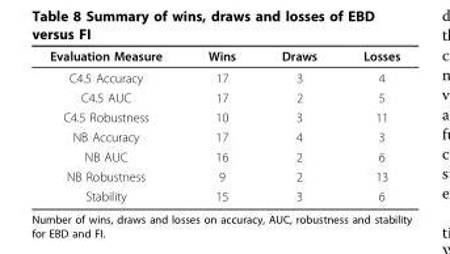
<table><thead><tr><td>Evaluation Measure</td><td>Wins</td><td>Draws</td><td>Losses</td></tr></thead><tbody><tr><td>C4.5 Accuracy</td><td>17</td><td>3</td><td>4</td></tr><tr><td>C4.5 AUC</td><td>17</td><td>2</td><td>5</td></tr><tr><td>C4.5 Robustness</td><td>10</td><td>3</td><td>11</td></tr><tr><td>NB Accuracy</td><td>17</td><td>4</td><td>3</td></tr><tr><td>NB AUC</td><td>16</td><td>2</td><td>6</td></tr><tr><td>NB Robustness</td><td>9</td><td>2</td><td>13</td></tr><tr><td>Stability</td><td>15</td><td>3</td><td>6</td></tr></tbody></table>